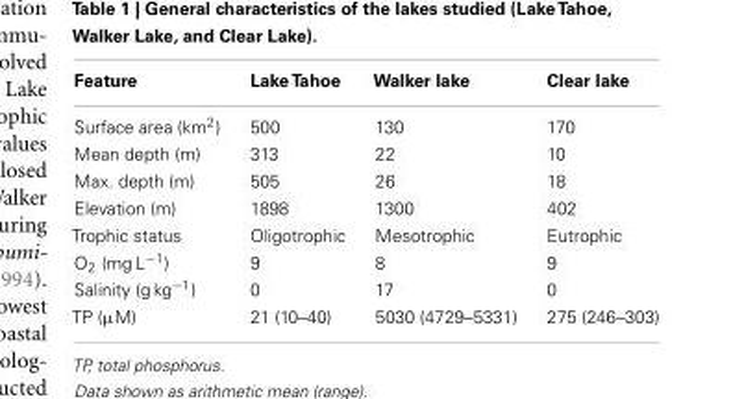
<table><thead><tr><td>Feature</td><td>LakeTahoe</td><td>Walker lake</td><td>Clear lake</td></tr></thead><tbody><tr><td>Surface area (km<sup>2</sup>)</td><td>500</td><td>130</td><td>170</td></tr><tr><td>Mean depth (m)</td><td>313</td><td>22</td><td>10</td></tr><tr><td>Max. depth (m)</td><td>505</td><td>26</td><td>18</td></tr><tr><td>Elevation (m)</td><td>1898</td><td>1300</td><td>402</td></tr><tr><td>Trophic status</td><td>Oligotrophic</td><td>Mesotrophic</td><td>Eutrophic</td></tr><tr><td>O<sub>2</sub> (mg L<sup>−1</sup>)</td><td>9</td><td>8</td><td>9</td></tr><tr><td>Salinity (g kg<sup>−1</sup>)</td><td>0</td><td>17</td><td>0</td></tr><tr><td>TP (µM)</td><td>21 (10–40)</td><td>5030 (4729–5331)</td><td>275 (246–303)</td></tr></tbody></table>